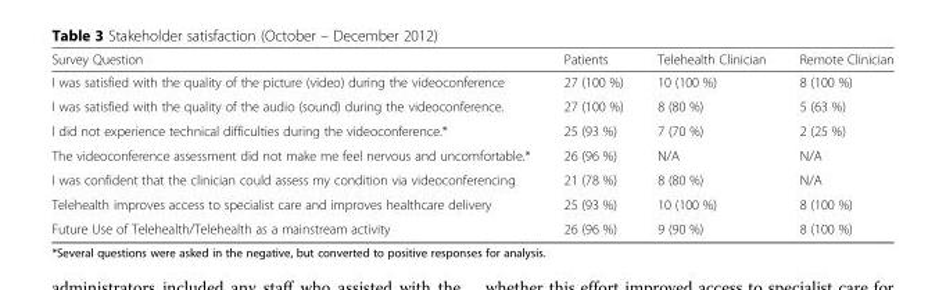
<table><thead><tr><td>Survey Question</td><td>Patients</td><td>Telehealth Clinician</td><td>Remote Clinician</td></tr></thead><tbody><tr><td>I was satisfied with the quality of the picture (video) during the videoconference</td><td>27 (100 %)</td><td>10 (100 %)</td><td>8 (100 %)</td></tr><tr><td>I was satisfied with the quality of the audio (sound) during the videoconference.</td><td>27 (100 %)</td><td>8 (80 %)</td><td>5 (63 %)</td></tr><tr><td>I did not experience technical difficulties during the videoconference.*</td><td>25 (93 %)</td><td>7 (70 %)</td><td>2 (25 %)</td></tr><tr><td>The videoconference assessment did not make me feel nervous and uncomfortable.*</td><td>26 (96 %)</td><td>N/A</td><td>N/A</td></tr><tr><td>I was confident that the clinician could assess my condition via videoconferencing</td><td>21 (78 %)</td><td>8 (80 %)</td><td>N/A</td></tr><tr><td>Telehealth improves access to specialist care and improves healthcare delivery</td><td>25 (93 %)</td><td>10 (100 %)</td><td>8 (100 %)</td></tr><tr><td>Future Use of Telehealth/Telehealth as a mainstream activity</td><td>26 (96 %)</td><td>9 (90 %)</td><td>8 (100 %)</td></tr></tbody></table>